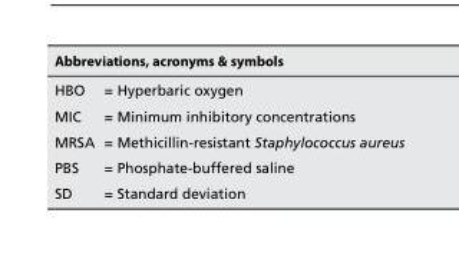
<table><thead><tr><td colspan="2">Abbreviations, acronyms &amp; symbols</td></tr><tr><td>HBO</td><td>= Hyperbaric oxygen</td></tr></thead><tbody><tr><td>MIC</td><td>= Minimum inhibitory concentrations</td></tr><tr><td>MRSA</td><td>= Methicillin-resistant Staphylococcus aureus</td></tr><tr><td>PBS</td><td>= Phosphate-buffered saline</td></tr><tr><td>SD</td><td>= Standard deviation</td></tr></tbody></table>